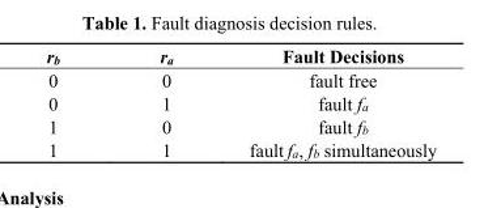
<table><thead><tr><td>r<sub>b</sub></td><td>r<sub>a</sub></td><td>Fault Decisions</td></tr></thead><tbody><tr><td>0</td><td>0</td><td>fault free</td></tr><tr><td>0</td><td>1</td><td>fault f<sub>a</sub></td></tr><tr><td>1</td><td>0</td><td>fault f<sub>b</sub></td></tr><tr><td>1</td><td>1</td><td>fault f<sub>a</sub>, f<sub>b</sub> simultaneously</td></tr></tbody></table>